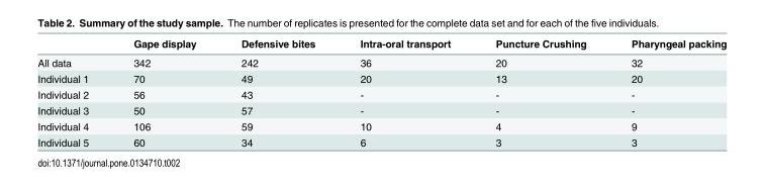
<table><thead><tr><td></td><td>Gape display</td><td>Defensive bites</td><td>Intra-oral transport</td><td>Puncture Crushing</td><td>Pharyngeal packing</td></tr></thead><tbody><tr><td>All data</td><td>342</td><td>242</td><td>36</td><td>20</td><td>32</td></tr><tr><td>Individual 1</td><td>70</td><td>49</td><td>20</td><td>13</td><td>20</td></tr><tr><td>Individual 2</td><td>56</td><td>43</td><td>-</td><td>-</td><td>-</td></tr><tr><td>Individual 3</td><td>50</td><td>57</td><td>-</td><td>-</td><td>-</td></tr><tr><td>Individual 4</td><td>106</td><td>59</td><td>10</td><td>4</td><td>9</td></tr><tr><td>Individual 5</td><td>60</td><td>34</td><td>6</td><td>3</td><td>3</td></tr></tbody></table>